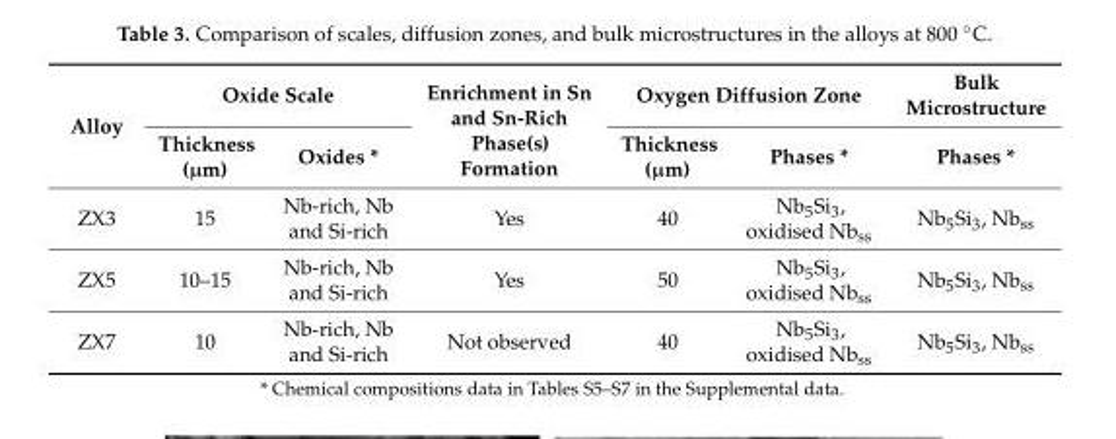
<table><thead><tr><td rowspan="2">Alloy</td><td colspan="2">Oxide Scale</td><td rowspan="2">Enrichment in Sn and Sn-Rich Phase(s) Formation</td><td colspan="2">Oxygen Diffusion Zone</td><td rowspan="2">Bulk Microstructure Phases *</td></tr><tr><td>Thickness (µm)</td><td>Oxides *</td><td>Thickness (µm)</td><td>Phases *</td></tr></thead><tbody><tr><td>ZX3</td><td>15</td><td>Nb-rich, Nb and Si-rich</td><td>Yes</td><td>40</td><td>Nb<sub>5</sub>Si<sub>3</sub>, oxidised Nb<sub>ss</sub></td><td>Nb<sub>5</sub>Si<sub>3</sub>, Nb<sub>ss</sub></td></tr><tr><td>ZX5</td><td>10–15</td><td>Nb-rich, Nb and Si-rich</td><td>Yes</td><td>50</td><td>Nb<sub>5</sub>Si<sub>3</sub>, oxidised Nb<sub>ss</sub></td><td>Nb<sub>5</sub>Si<sub>3</sub>, Nb<sub>ss</sub></td></tr><tr><td>ZX7</td><td>10</td><td>Nb-rich, Nb and Si-rich</td><td>Not observed</td><td>40</td><td>Nb<sub>5</sub>Si<sub>3</sub>, oxidised Nb<sub>ss</sub></td><td>Nb<sub>5</sub>Si<sub>3</sub>, Nb<sub>ss</sub></td></tr></tbody></table>